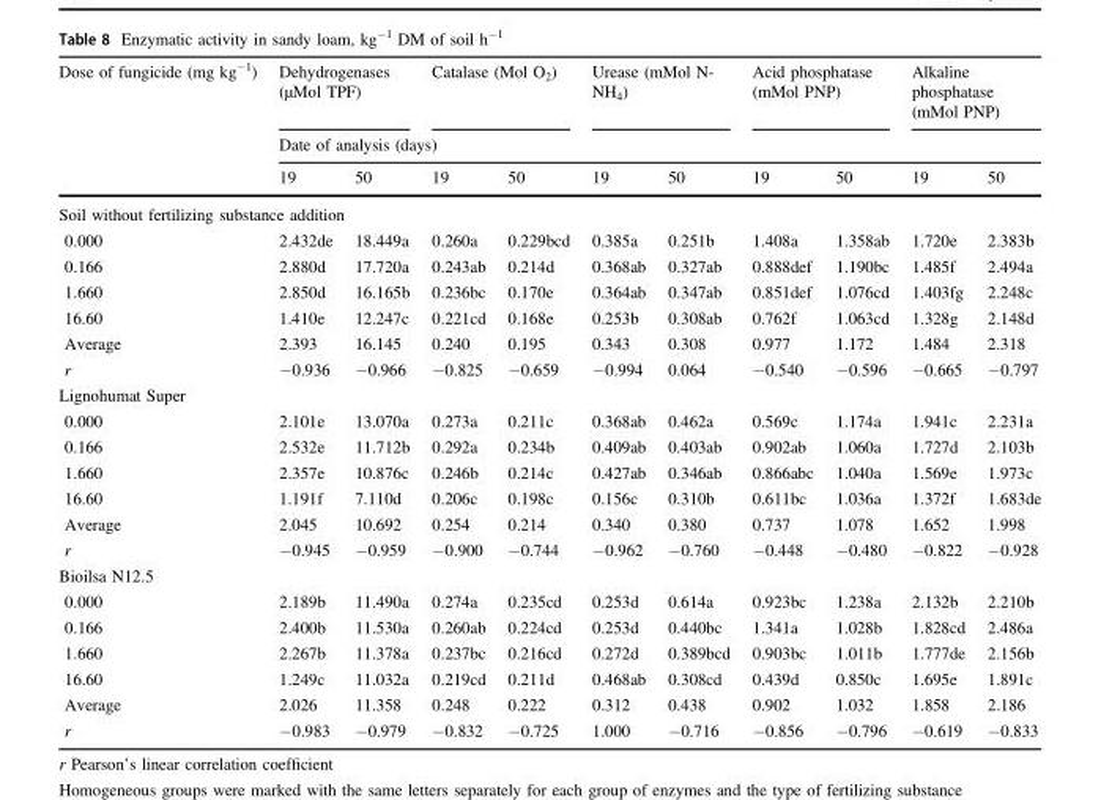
<table><thead><tr><td rowspan="3">Dose of fungicide (mg kg<sup>−1</sup>)</td><td colspan="2">Dehydrogenases (µMol TPF)</td><td colspan="2">Catalase (Mol O<sub>2</sub>)</td><td colspan="2">Urease (mMol N- NH<sub>4</sub>)</td><td colspan="2">Acid phosphatase (mMol PNP)</td><td colspan="2">Alkaline phosphatase (mMol PNP)</td></tr><tr><td colspan="10">Date of analysis (days)</td></tr><tr><td>19</td><td>50</td><td>19</td><td>50</td><td>19</td><td>50</td><td>19</td><td>50</td><td>19</td><td>50</td></tr></thead><tbody><tr><td colspan="11">Soil without fertilizing substance addition</td></tr><tr><td>0.000</td><td>2.432de</td><td>18.449a</td><td>0.260a</td><td>0.229bcd</td><td>0.385a</td><td>0.251b</td><td>1.408a</td><td>1.358ab</td><td>1.720e</td><td>2.383b</td></tr><tr><td>0.166</td><td>2.880d</td><td>17.720a</td><td>0.243ab</td><td>0.214d</td><td>0.368ab</td><td>0.327ab</td><td>0.888def</td><td>1.190bc</td><td>1.485f</td><td>2.494a</td></tr><tr><td>1.660</td><td>2.850d</td><td>16.165b</td><td>0.236bc</td><td>0.170e</td><td>0.364ab</td><td>0.347ab</td><td>0.851def</td><td>1.076cd</td><td>1.403fg</td><td>2.248c</td></tr><tr><td>16.60</td><td>1.410e</td><td>12.247c</td><td>0.221cd</td><td>0.168e</td><td>0.253b</td><td>0.308ab</td><td>0.762f</td><td>1.063cd</td><td>1.328g</td><td>2.148d</td></tr><tr><td>Average</td><td>2.393</td><td>16.145</td><td>0.240</td><td>0.195</td><td>0.343</td><td>0.308</td><td>0.977</td><td>1.172</td><td>1.484</td><td>2.318</td></tr><tr><td>r</td><td>−0.936</td><td>−0.966</td><td>−0.825</td><td>−0.659</td><td>−0.994</td><td>0.064</td><td>−0.540</td><td>−0.596</td><td>−0.665</td><td>−0.797</td></tr><tr><td colspan="11">Lignohumat Super</td></tr><tr><td>0.000</td><td>2.101e</td><td>13.070a</td><td>0.273a</td><td>0.211c</td><td>0.368ab</td><td>0.462a</td><td>0.569c</td><td>1.174a</td><td>1.941c</td><td>2.231a</td></tr><tr><td>0.166</td><td>2.532e</td><td>11.712b</td><td>0.292a</td><td>0.234b</td><td>0.409ab</td><td>0.403ab</td><td>0.902ab</td><td>1.060a</td><td>1.727d</td><td>2.103b</td></tr><tr><td>1.660</td><td>2.357e</td><td>10.876c</td><td>0.246b</td><td>0.214c</td><td>0.427ab</td><td>0.346ab</td><td>0.866abc</td><td>1.040a</td><td>1.569e</td><td>1.973c</td></tr><tr><td>16.60</td><td>1.191f</td><td>7.110d</td><td>0.206c</td><td>0.198c</td><td>0.156c</td><td>0.310b</td><td>0.611bc</td><td>1.036a</td><td>1.372f</td><td>1.683de</td></tr><tr><td>Average</td><td>2.045</td><td>10.692</td><td>0.254</td><td>0.214</td><td>0.340</td><td>0.380</td><td>0.737</td><td>1.078</td><td>1.652</td><td>1.998</td></tr><tr><td>r</td><td>−0.945</td><td>−0.959</td><td>−0.900</td><td>−0.744</td><td>−0.962</td><td>−0.760</td><td>−0.448</td><td>−0.480</td><td>−0.822</td><td>−0.928</td></tr><tr><td colspan="11">Bioilsa N12.5</td></tr><tr><td>0.000</td><td>2.189b</td><td>11.490a</td><td>0.274a</td><td>0.235cd</td><td>0.253d</td><td>0.614a</td><td>0.923bc</td><td>1.238a</td><td>2.132b</td><td>2.210b</td></tr><tr><td>0.166</td><td>2.400b</td><td>11.530a</td><td>0.260ab</td><td>0.224cd</td><td>0.253d</td><td>0.440bc</td><td>1.341a</td><td>1.028b</td><td>1.828cd</td><td>2.486a</td></tr><tr><td>1.660</td><td>2.267b</td><td>11.378a</td><td>0.237bc</td><td>0.216cd</td><td>0.272d</td><td>0.389bcd</td><td>0.903bc</td><td>1.011b</td><td>1.777de</td><td>2.156b</td></tr><tr><td>16.60</td><td>1.249c</td><td>11.032a</td><td>0.219cd</td><td>0.211d</td><td>0.468ab</td><td>0.308cd</td><td>0.439d</td><td>0.850c</td><td>1.695e</td><td>1.891c</td></tr><tr><td>Average</td><td>2.026</td><td>11.358</td><td>0.248</td><td>0.222</td><td>0.312</td><td>0.438</td><td>0.902</td><td>1.032</td><td>1.858</td><td>2.186</td></tr><tr><td>r</td><td>−0.983</td><td>−0.979</td><td>−0.832</td><td>−0.725</td><td>1.000</td><td>−0.716</td><td>−0.856</td><td>−0.796</td><td>−0.619</td><td>−0.833</td></tr></tbody></table>